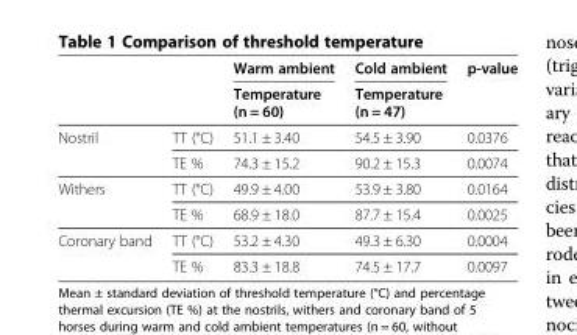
<table><thead><tr><td rowspan="2"></td><td rowspan="2"></td><td rowspan="2">Warm ambient Temperature (n = 60)</td><td rowspan="2">Cold ambient Temperature (n = 47)</td><td rowspan="2">p-value</td></tr><tr></tr></thead><tbody><tr><td rowspan="2">Nostril</td><td>TT (°C)</td><td>51.1 ± 3.40</td><td>54.5 ± 3.90</td><td>0.0376</td></tr><tr><td>TE %</td><td>74.3 ± 15.2</td><td>90.2 ± 15.3</td><td>0.0074</td></tr><tr><td rowspan="2">Withers</td><td>TT (°C)</td><td>49.9 ± 4.00</td><td>53.9 ± 3.80</td><td>0.0164</td></tr><tr><td>TE %</td><td>68.9 ± 18.0</td><td>87.7 ± 15.4</td><td>0.0025</td></tr><tr><td rowspan="2">Coronary band</td><td>TT (°C)</td><td>53.2 ± 4.30</td><td>49.3 ± 6.30</td><td>0.0004</td></tr><tr><td>TE %</td><td>83.3 ± 18.8</td><td>74.5 ± 17.7</td><td>0.0097</td></tr></tbody></table>